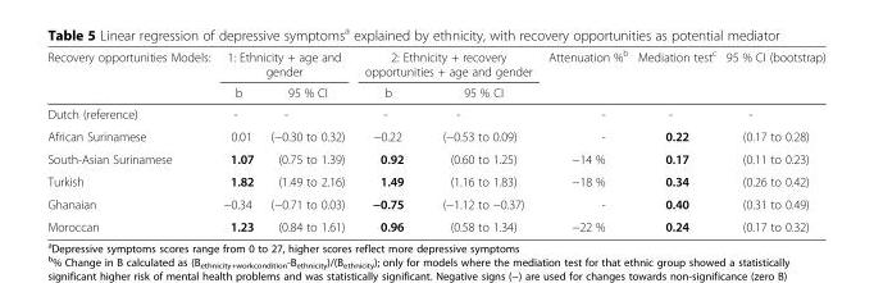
<table><thead><tr><td rowspan="2">Recovery opportunities Models:</td><td colspan="2">1: Ethnicity + age and gender</td><td colspan="2">2: Ethnicity + recovery opportunities + age and gender</td><td rowspan="2">Attenuation %<sup>b</sup></td><td rowspan="2">Mediation test<sup>c</sup></td><td rowspan="2">95 % CI (bootstrap)</td></tr><tr><td>b</td><td>95 % CI</td><td>b</td><td>95 % CI</td></tr></thead><tbody><tr><td>Dutch (reference)</td><td>-</td><td>-</td><td>-</td><td>-</td><td>-</td><td>-</td><td>-</td></tr><tr><td>African Surinamese</td><td>0.01</td><td>(−0.30 to 0.32)</td><td>−0.22</td><td>(−0.53 to 0.09)</td><td>-</td><td>0.22</td><td>(0.17 to 0.28)</td></tr><tr><td>South-Asian Surinamese</td><td>1.07</td><td>(0.75 to 1.39)</td><td>0.92</td><td>(0.60 to 1.25)</td><td>−14 %</td><td>0.17</td><td>(0.11 to 0.23)</td></tr><tr><td>Turkish</td><td>1.82</td><td>(1.49 to 2.16)</td><td>1.49</td><td>(1.16 to 1.83)</td><td>−18 %</td><td>0.34</td><td>(0.26 to 0.42)</td></tr><tr><td>Ghanaian</td><td>−0.34</td><td>(−0.71 to 0.03)</td><td>−0.75</td><td>(−1.12 to −0.37)</td><td>-</td><td>0.40</td><td>(0.31 to 0.49)</td></tr><tr><td>Moroccan</td><td>1.23</td><td>(0.84 to 1.61)</td><td>0.96</td><td>(0.58 to 1.34)</td><td>−22 %</td><td>0.24</td><td>(0.17 to 0.32)</td></tr></tbody></table>